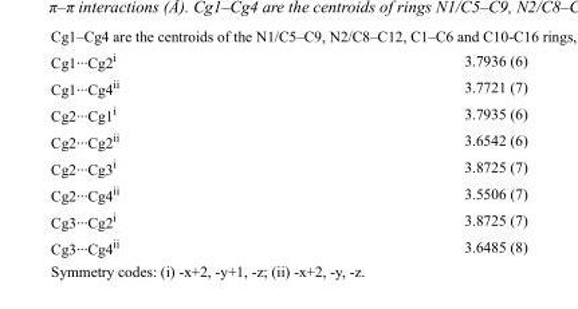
<table><tbody><tr><td>Cg1···Cg2<sup>i</sup></td><td>3.7936 (6)</td></tr><tr><td>Cg1···Cg4<sup>ii</sup></td><td>3.7721 (7)</td></tr><tr><td>Cg2···Cg1<sup>i</sup></td><td>3.7935 (6)</td></tr><tr><td>Cg2···Cg2<sup>ii</sup></td><td>3.6542 (6)</td></tr><tr><td>Cg2···Cg3<sup>i</sup></td><td>3.8725 (7)</td></tr><tr><td>Cg2···Cg4<sup>ii</sup></td><td>3.5506 (7)</td></tr><tr><td>Cg3···Cg2<sup>i</sup></td><td>3.8725 (7)</td></tr><tr><td>Cg3···Cg4<sup>ii</sup></td><td>3.6485 (8)</td></tr></tbody></table>